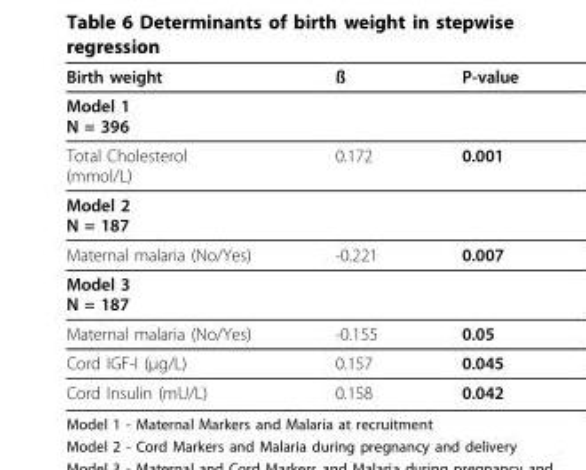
<table><thead><tr><td>Birth weight</td><td>ß</td><td>P-value</td></tr></thead><tbody><tr><td colspan="3">Model 1 N = 396</td></tr><tr><td>Total Cholesterol (mmol/L)</td><td>0.172</td><td>0.001</td></tr><tr><td colspan="3">Model 2 N = 187</td></tr><tr><td>Maternal malaria (No/Yes)</td><td>-0.221</td><td>0.007</td></tr><tr><td colspan="3">Model 3 N = 187</td></tr><tr><td>Maternal malaria (No/Yes)</td><td>-0.155</td><td>0.05</td></tr><tr><td>Cord IGF-I (μg/L)</td><td>0.157</td><td>0.045</td></tr><tr><td>Cord Insulin (mU/L)</td><td>0.158</td><td>0.042</td></tr></tbody></table>